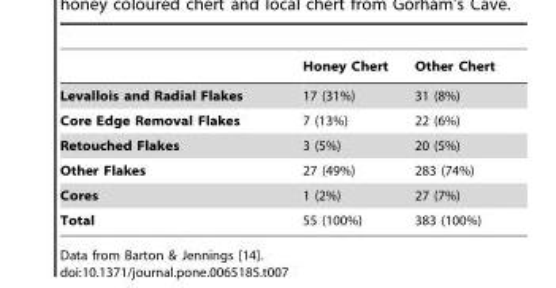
<table><thead><tr><td></td><td>Honey Chert</td><td>Other Chert</td></tr></thead><tbody><tr><td>Levallois and Radial Flakes</td><td>17 (31%)</td><td>31 (8%)</td></tr><tr><td>Core Edge Removal Flakes</td><td>7 (13%)</td><td>22 (6%)</td></tr><tr><td>Retouched Flakes</td><td>3 (5%)</td><td>20 (5%)</td></tr><tr><td>Other Flakes</td><td>27 (49%)</td><td>283 (74%)</td></tr><tr><td>Cores</td><td>1 (2%)</td><td>27 (7%)</td></tr><tr><td>Total</td><td>55 (100%)</td><td>383 (100%)</td></tr></tbody></table>